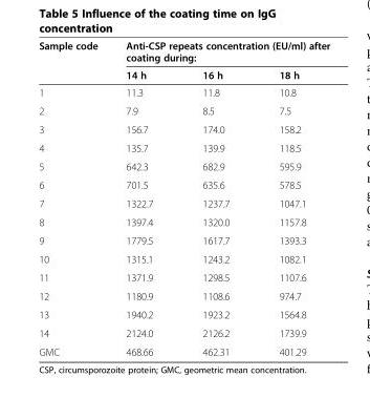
<table><thead><tr><td rowspan="2">Sample code</td><td colspan="3">Anti-CSP repeats concentration (EU/ml) after coating during:</td></tr><tr><td>14 h</td><td>16 h</td><td>18 h</td></tr></thead><tbody><tr><td>1</td><td>11.3</td><td>11.8</td><td>10.8</td></tr><tr><td>2</td><td>7.9</td><td>8.5</td><td>7.5</td></tr><tr><td>3</td><td>156.7</td><td>174.0</td><td>158.2</td></tr><tr><td>4</td><td>135.7</td><td>139.9</td><td>118.5</td></tr><tr><td>5</td><td>642.3</td><td>682.9</td><td>595.9</td></tr><tr><td>6</td><td>701.5</td><td>635.6</td><td>578.5</td></tr><tr><td>7</td><td>1322.7</td><td>1237.7</td><td>1047.1</td></tr><tr><td>8</td><td>1397.4</td><td>1320.0</td><td>1157.8</td></tr><tr><td>9</td><td>1779.5</td><td>1617.7</td><td>1393.3</td></tr><tr><td>10</td><td>1315.1</td><td>1243.2</td><td>1082.1</td></tr><tr><td>11</td><td>1371.9</td><td>1298.5</td><td>1107.6</td></tr><tr><td>12</td><td>1180.9</td><td>1108.6</td><td>974.7</td></tr><tr><td>13</td><td>1940.2</td><td>1923.2</td><td>1564.8</td></tr><tr><td>14</td><td>2124.0</td><td>2126.2</td><td>1739.9</td></tr><tr><td>GMC</td><td>468.66</td><td>462.31</td><td>401.29</td></tr></tbody></table>